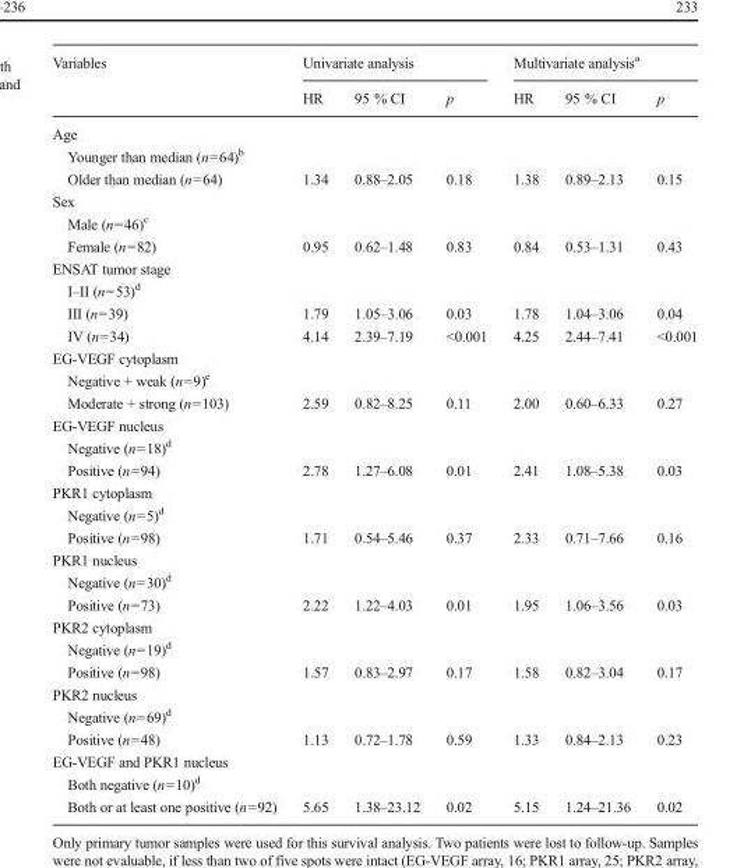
<table><thead><tr><td rowspan="2">Variables</td><td colspan="3">Univariate analysis</td><td colspan="3">Multivariate analysis<sup>a</sup></td></tr><tr><td>HR</td><td>95 % CI</td><td>p</td><td>HR</td><td>95 % CI</td><td>p</td></tr></thead><tbody><tr><td colspan="7">Age</td></tr><tr><td colspan="7">Younger than median (n=64)<sup>b</sup></td></tr><tr><td>Older than median (n=64)</td><td>1.34</td><td>0.88–2.05</td><td>0.18</td><td>1.38</td><td>0.89–2.13</td><td>0.15</td></tr><tr><td colspan="7">Sex</td></tr><tr><td colspan="7">Male (n=46)<sup>c</sup></td></tr><tr><td>Female (n=82)</td><td>0.95</td><td>0.62–1.48</td><td>0.83</td><td>0.84</td><td>0.53–1.31</td><td>0.43</td></tr><tr><td colspan="7">ENSAT tumor stage</td></tr><tr><td colspan="7">I–II (n=53)<sup>d</sup></td></tr><tr><td>III (n=39)</td><td>1.79</td><td>1.05–3.06</td><td>0.03</td><td>1.78</td><td>1.04–3.06</td><td>0.04</td></tr><tr><td>IV (n=34)</td><td>4.14</td><td>2.39–7.19</td><td>&lt;0.001</td><td>4.25</td><td>2.44–7.41</td><td>&lt;0.001</td></tr><tr><td colspan="7">EG-VEGF cytoplasm</td></tr><tr><td colspan="7">Negative + weak (n=9)<sup>e</sup></td></tr><tr><td>Moderate + strong (n=103)</td><td>2.59</td><td>0.82–8.25</td><td>0.11</td><td>2.00</td><td>0.60–6.33</td><td>0.27</td></tr><tr><td colspan="7">EG-VEGF nucleus</td></tr><tr><td colspan="7">Negative (n=18)<sup>d</sup></td></tr><tr><td>Positive (n=94)</td><td>2.78</td><td>1.27–6.08</td><td>0.01</td><td>2.41</td><td>1.08–5.38</td><td>0.03</td></tr><tr><td colspan="7">PKR1 cytoplasm</td></tr><tr><td colspan="7">Negative (n=5)<sup>d</sup></td></tr><tr><td>Positive (n=98)</td><td>1.71</td><td>0.54–5.46</td><td>0.37</td><td>2.33</td><td>0.71–7.66</td><td>0.16</td></tr><tr><td colspan="7">PKR1 nucleus</td></tr><tr><td colspan="7">Negative (n=30)<sup>d</sup></td></tr><tr><td>Positive (n=73)</td><td>2.22</td><td>1.22–4.03</td><td>0.01</td><td>1.95</td><td>1.06–3.56</td><td>0.03</td></tr><tr><td colspan="7">PKR2 cytoplasm</td></tr><tr><td colspan="7">Negative (n=19)<sup>d</sup></td></tr><tr><td>Positive (n=98)</td><td>1.57</td><td>0.83–2.97</td><td>0.17</td><td>1.58</td><td>0.82–3.04</td><td>0.17</td></tr><tr><td colspan="7">PKR2 nucleus</td></tr><tr><td colspan="7">Negative (n=69)<sup>d</sup></td></tr><tr><td>Positive (n=48)</td><td>1.13</td><td>0.72–1.78</td><td>0.59</td><td>1.33</td><td>0.84–2.13</td><td>0.23</td></tr><tr><td colspan="7">EG-VEGF and PKR1 nucleus</td></tr><tr><td colspan="7">Both negative (n=10)<sup>d</sup></td></tr><tr><td>Both or at least one positive (n=92)</td><td>5.65</td><td>1.38–23.12</td><td>0.02</td><td>5.15</td><td>1.24–21.36</td><td>0.02</td></tr></tbody></table>